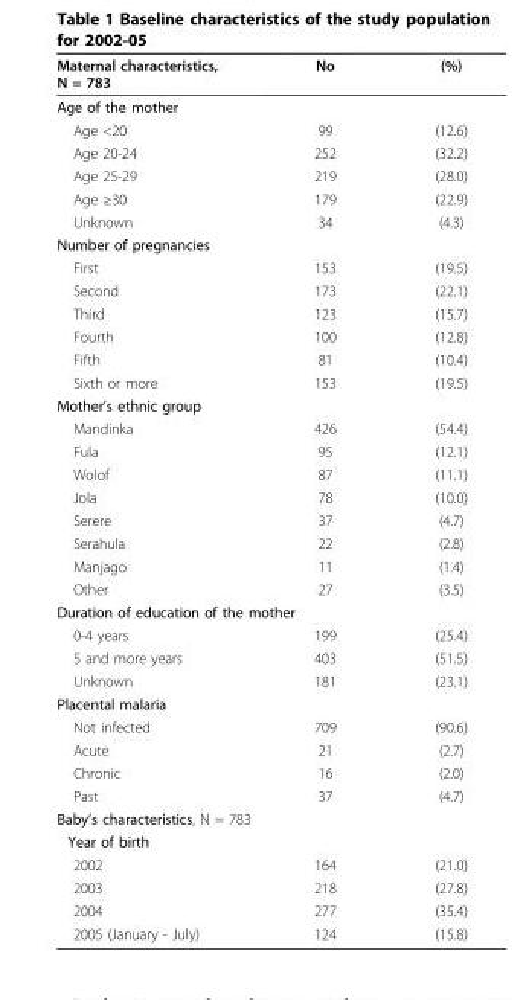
<table><tbody><tr><td>Maternal characteristics, N = 783</td><td>No</td><td>(%)</td></tr><tr><td colspan="3">Age of the mother</td></tr><tr><td>Age &lt;20</td><td>99</td><td>(12.6)</td></tr><tr><td>Age 20-24</td><td>252</td><td>(32.2)</td></tr><tr><td>Age 25-29</td><td>219</td><td>(28.0)</td></tr><tr><td>Age ≥30</td><td>179</td><td>(22.9)</td></tr><tr><td>Unknown</td><td>34</td><td>(4.3)</td></tr><tr><td colspan="3">Number of pregnancies</td></tr><tr><td>First</td><td>153</td><td>(19.5)</td></tr><tr><td>Second</td><td>173</td><td>(22.1)</td></tr><tr><td>Third</td><td>123</td><td>(15.7)</td></tr><tr><td>Fourth</td><td>100</td><td>(12.8)</td></tr><tr><td>Fifth</td><td>81</td><td>(10.4)</td></tr><tr><td>Sixth or more</td><td>153</td><td>(19.5)</td></tr><tr><td colspan="3">Mother’s ethnic group</td></tr><tr><td>Mandinka</td><td>426</td><td>(54.4)</td></tr><tr><td>Fula</td><td>95</td><td>(12.1)</td></tr><tr><td>Wolof</td><td>87</td><td>(11.1)</td></tr><tr><td>Jola</td><td>78</td><td>(10.0)</td></tr><tr><td>Serere</td><td>37</td><td>(4.7)</td></tr><tr><td>Serahula</td><td>22</td><td>(2.8)</td></tr><tr><td>Manjago</td><td>11</td><td>(1.4)</td></tr><tr><td>Other</td><td>27</td><td>(3.5)</td></tr><tr><td colspan="3">Duration of education of the mother</td></tr><tr><td>0-4 years</td><td>199</td><td>(25.4)</td></tr><tr><td>5 and more years</td><td>403</td><td>(51.5)</td></tr><tr><td>Unknown</td><td>181</td><td>(23.1)</td></tr><tr><td colspan="3">Placental malaria</td></tr><tr><td>Not infected</td><td>709</td><td>(90.6)</td></tr><tr><td>Acute</td><td>21</td><td>(2.7)</td></tr><tr><td>Chronic</td><td>16</td><td>(2.0)</td></tr><tr><td>Past</td><td>37</td><td>(4.7)</td></tr><tr><td colspan="3">Baby’s characteristics, N = 783</td></tr><tr><td colspan="3">Year of birth</td></tr><tr><td>2002</td><td>164</td><td>(21.0)</td></tr><tr><td>2003</td><td>218</td><td>(27.8)</td></tr><tr><td>2004</td><td>277</td><td>(35.4)</td></tr><tr><td>2005 (January - July)</td><td>124</td><td>(15.8)</td></tr></tbody></table>